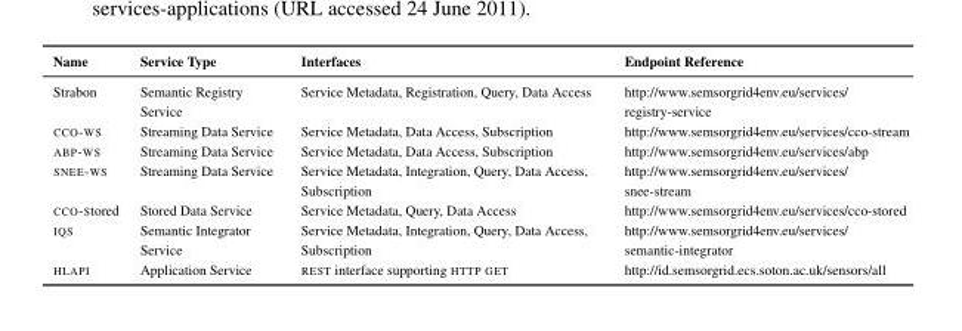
<table><thead><tr><td>Name</td><td>Service Type</td><td>Interfaces</td><td>Endpoint Reference</td></tr></thead><tbody><tr><td>Strabon</td><td>Semantic Registry Service</td><td>Service Metadata, Registration, Query, Data Access</td><td>http://www.semsorgrid4env.eu/services/ registry-service</td></tr><tr><td>CCO-WS</td><td>Streaming Data Service</td><td>Service Metadata, Data Access, Subscription</td><td>http://www.semsorgrid4env.eu/services/cco-stream</td></tr><tr><td>ABP-WS</td><td>Streaming Data Service</td><td>Service Metadata, Data Access, Subscription</td><td>http://www.semsorgrid4env.eu/services/abp</td></tr><tr><td>SNEE-WS</td><td>Streaming Data Service</td><td>Service Metadata, Integration, Query, Data Access, Subscription</td><td>http://www.semsorgrid4env.eu/services/ snee-stream</td></tr><tr><td>CCO-Stored</td><td>Stored Data Service</td><td>Service Metadata, Query, Data Access</td><td>http://www.semsorgrid4env.eu/services/cco-stored</td></tr><tr><td>IQS</td><td>Semantic Integrator Service</td><td>Service Metadata, Integration, Query, Data Access, Subscription</td><td>http://www.semsorgrid4env.eu/services/ semantic-integrator</td></tr><tr><td>HLAPI</td><td>Application Service</td><td>REST interface supporting HTTP GET</td><td>http://id.semsorgrid.ecs.soton.ac.uk/sensors/all</td></tr></tbody></table>